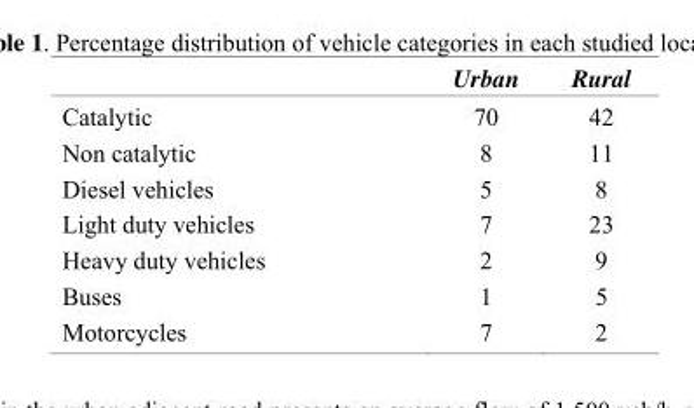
<table><thead><tr><td></td><td>Urban</td><td>Rural</td></tr></thead><tbody><tr><td>Catalytic</td><td>70</td><td>42</td></tr><tr><td>Non catalytic</td><td>8</td><td>11</td></tr><tr><td>Diesel vehicles</td><td>5</td><td>8</td></tr><tr><td>Light duty vehicles</td><td>7</td><td>23</td></tr><tr><td>Heavy duty vehicles</td><td>2</td><td>9</td></tr><tr><td>Buses</td><td>1</td><td>5</td></tr><tr><td>Motorcycles</td><td>7</td><td>2</td></tr></tbody></table>